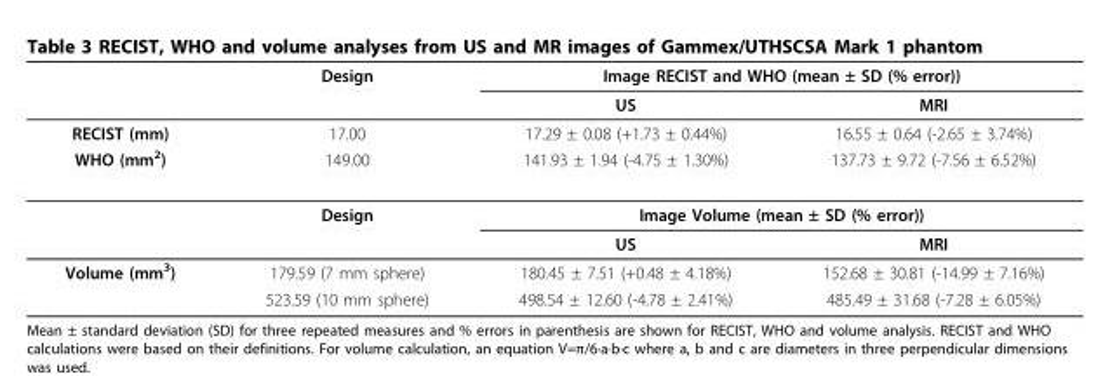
<table><thead><tr><td rowspan="2"></td><td rowspan="2">Design</td><td colspan="2">Image RECIST and WHO (mean ± SD (% error))</td></tr><tr><td>US</td><td>MRI</td></tr></thead><tbody><tr><td>RECIST (mm)</td><td>17.00</td><td>17.29 ± 0.08 (+1.73 ± 0.44%)</td><td>16.55 ± 0.64 (-2.65 ± 3.74%)</td></tr><tr><td rowspan="3">WHO (mm<sup>2</sup>)</td><td>149.00</td><td>141.93 ± 1.94 (-4.75 ± 1.30%)</td><td>137.73 ± 9.72 (-7.56 ± 6.52%)</td></tr><tr><td>Design</td><td colspan="2">Image Volume (mean ± SD (% error))</td></tr><tr><td></td><td>US</td><td>MRI</td></tr><tr><td rowspan="2">Volume (mm<sup>3</sup>)</td><td>179.59 (7 mm sphere)</td><td>180.45 ± 7.51 (+0.48 ± 4.18%)</td><td>152.68 ± 30.81 (-14.99 ± 7.16%)</td></tr><tr><td>523.59 (10 mm sphere)</td><td>498.54 ± 12.60 (-4.78 ± 2.41%)</td><td>485.49 ± 31.68 (-7.28 ± 6.05%)</td></tr></tbody></table>